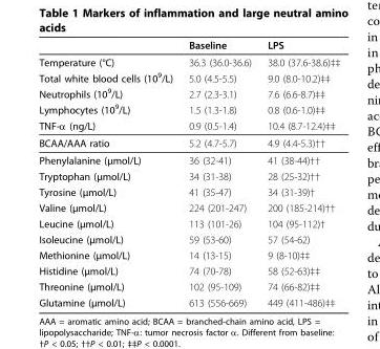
<table><thead><tr><td></td><td>Baseline</td><td>LPS</td></tr></thead><tbody><tr><td>Temperature (°C)</td><td>36.3 (36.0-36.6)</td><td>38.0 (37.6-38.6)‡‡</td></tr><tr><td>Total white blood cells (10<sup>9</sup>/L)</td><td>5.0 (4.5-5.5)</td><td>9.0 (8.0-10.2)‡‡</td></tr><tr><td>Neutrophils (10<sup>9</sup>/L)</td><td>2.7 (2.3-3.1)</td><td>7.6 (6.6-8.7)‡‡</td></tr><tr><td>Lymphocytes (10<sup>9</sup>/L)</td><td>1.5 (1.3-1.8)</td><td>0.8 (0.6-1.0)‡‡</td></tr><tr><td>TNF-α (ng/L)</td><td>0.9 (0.5-1.4)</td><td>10.4 (8.7-12.4)‡‡</td></tr><tr><td>BCAA/AAA ratio</td><td>5.2 (4.7-5.7)</td><td>4.9 (4.4-5.3)††</td></tr><tr><td>Phenylalanine (μmol/L)</td><td>36 (32-41)</td><td>41 (38-44)††</td></tr><tr><td>Tryptophan (μmol/L)</td><td>34 (31-38)</td><td>28 (25-32)††</td></tr><tr><td>Tyrosine (μmol/L)</td><td>41 (35-47)</td><td>34 (31-39)†</td></tr><tr><td>Valine (μmol/L)</td><td>224 (201-247)</td><td>200 (185-214)††</td></tr><tr><td>Leucine (μmol/L)</td><td>113 (101-26)</td><td>104 (95-112)†</td></tr><tr><td>Isoleucine (μmol/L)</td><td>59 (53-60)</td><td>57 (54-62)</td></tr><tr><td>Methionine (μmol/L)</td><td>14 (13-15)</td><td>9 (8-10)‡‡</td></tr><tr><td>Histidine (μmol/L)</td><td>74 (70-78)</td><td>58 (52-63)‡‡</td></tr><tr><td>Threonine (μmol/L)</td><td>102 (95-109)</td><td>74 (66-82)‡‡</td></tr><tr><td>Glutamine (μmol/L)</td><td>613 (556-669)</td><td>449 (411-486)‡‡</td></tr></tbody></table>